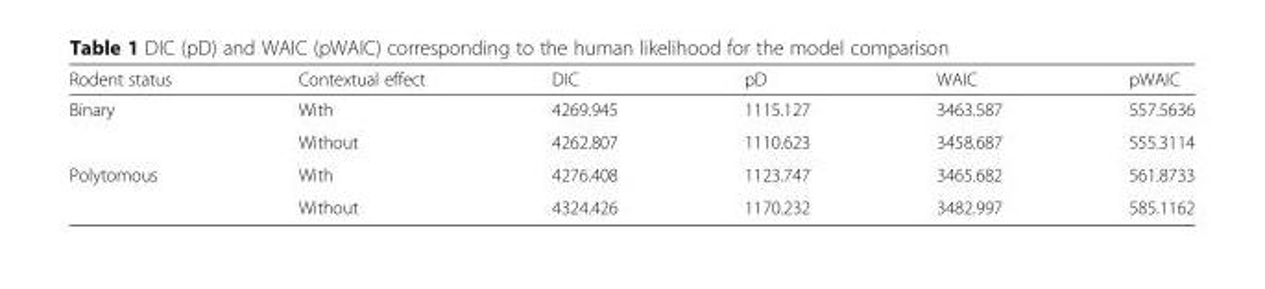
<table><thead><tr><td>Rodent status</td><td>Contextual effect</td><td>DIC</td><td>pD</td><td>WAIC</td><td>pWAIC</td></tr></thead><tbody><tr><td rowspan="2">Binary</td><td>With</td><td>4269.945</td><td>1115.127</td><td>3463.587</td><td>557.5636</td></tr><tr><td>Without</td><td>4262.807</td><td>1110.623</td><td>3458.687</td><td>555.3114</td></tr><tr><td rowspan="2">Polytomous</td><td>With</td><td>4276.408</td><td>1123.747</td><td>3465.682</td><td>561.8733</td></tr><tr><td>Without</td><td>4324.426</td><td>1170.232</td><td>3482.997</td><td>585.1162</td></tr></tbody></table>